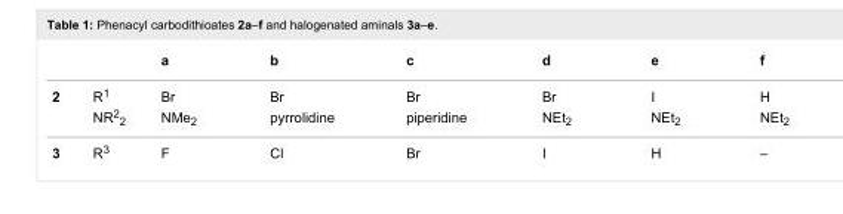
<table><thead><tr><td></td><td></td><td>a</td><td>b</td><td>c</td><td>d</td><td>e</td><td>f</td></tr></thead><tbody><tr><td rowspan="2">2</td><td>R1</td><td>Br</td><td>Br</td><td>Br</td><td>Br</td><td>I</td><td>H</td></tr><tr><td>NR22</td><td>NMe<sub>2</sub></td><td>pyrrolidine</td><td>piperidine</td><td>NEt<sub>2</sub></td><td>NEt<sub>2</sub></td><td>NEt<sub>2</sub></td></tr><tr><td>3</td><td>R3</td><td>F</td><td>Cl</td><td>Br</td><td>I</td><td>H</td><td>–</td></tr></tbody></table>